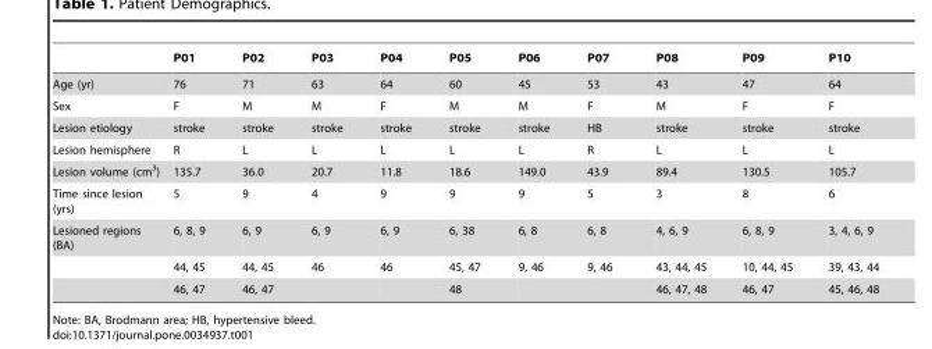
<table><thead><tr><td></td><td>P01</td><td>P02</td><td>P03</td><td>P04</td><td>P05</td><td>P06</td><td>P07</td><td>P08</td><td>P09</td><td>P10</td></tr></thead><tbody><tr><td>Age (yr)</td><td>76</td><td>71</td><td>63</td><td>64</td><td>60</td><td>45</td><td>53</td><td>43</td><td>47</td><td>64</td></tr><tr><td>Sex</td><td>F</td><td>M</td><td>M</td><td>F</td><td>M</td><td>M</td><td>F</td><td>M</td><td>F</td><td>F</td></tr><tr><td>Lesion etiology</td><td>stroke</td><td>stroke</td><td>stroke</td><td>stroke</td><td>stroke</td><td>stroke</td><td>HB</td><td>stroke</td><td>stroke</td><td>stroke</td></tr><tr><td>Lesion hemisphere</td><td>R</td><td>L</td><td>L</td><td>L</td><td>L</td><td>L</td><td>R</td><td>L</td><td>L</td><td>L</td></tr><tr><td>Lesion volume (cm<sup>3</sup>)</td><td>135.7</td><td>36.0</td><td>20.7</td><td>11.8</td><td>18.6</td><td>149.0</td><td>43.9</td><td>89.4</td><td>130.5</td><td>105.7</td></tr><tr><td>Time since lesion (yrs)</td><td>5</td><td>9</td><td>4</td><td>9</td><td>9</td><td>9</td><td>5</td><td>3</td><td>8</td><td>6</td></tr><tr><td rowspan="3">Lesioned regions (BA)</td><td>6, 8, 9</td><td>6, 9</td><td>6, 9</td><td>6, 9</td><td>6, 38</td><td>6, 8</td><td>6, 8</td><td>4, 6, 9</td><td>6, 8, 9</td><td>3, 4, 6, 9</td></tr><tr><td>44, 45</td><td>44, 45</td><td>46</td><td>46</td><td>45, 47</td><td>9, 46</td><td>9, 46</td><td>43, 44, 45</td><td>10, 44, 45</td><td>39, 43, 44</td></tr><tr><td>46, 47</td><td>46, 47</td><td></td><td></td><td>48</td><td></td><td></td><td>46, 47, 48</td><td>46, 47</td><td>45, 46, 48</td></tr></tbody></table>